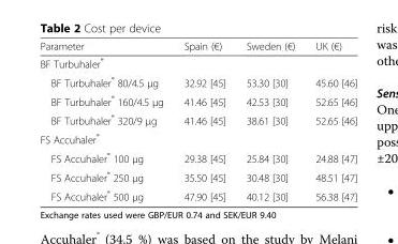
<table><thead><tr><td>Parameter</td><td>Spain (€)</td><td>Sweden (€)</td><td>UK (€)</td></tr></thead><tbody><tr><td colspan="4">BF Turbuhaler<sup>®</sup></td></tr><tr><td>BF Turbuhaler<sup>®</sup> 80/4.5 μg</td><td>32.92 [45]</td><td>53.30 [30]</td><td>45.60 [46]</td></tr><tr><td>BF Turbuhaler<sup>®</sup> 160/4.5 μg</td><td>41.46 [45]</td><td>42.53 [30]</td><td>52.65 [46]</td></tr><tr><td>BF Turbuhaler<sup>®</sup> 320/9 μg</td><td>41.46 [45]</td><td>38.61 [30]</td><td>52.65 [46]</td></tr><tr><td colspan="4">FS Accuhaler<sup>®</sup></td></tr><tr><td>FS Accuhaler<sup>®</sup> 100 μg</td><td>29.38 [45]</td><td>25.84 [30]</td><td>24.88 [47]</td></tr><tr><td>FS Accuhaler<sup>®</sup> 250 μg</td><td>35.50 [45]</td><td>30.48 [30]</td><td>48.51 [47]</td></tr><tr><td>FS Accuhaler<sup>®</sup> 500 μg</td><td>47.90 [45]</td><td>40.12 [30]</td><td>56.38 [47]</td></tr></tbody></table>